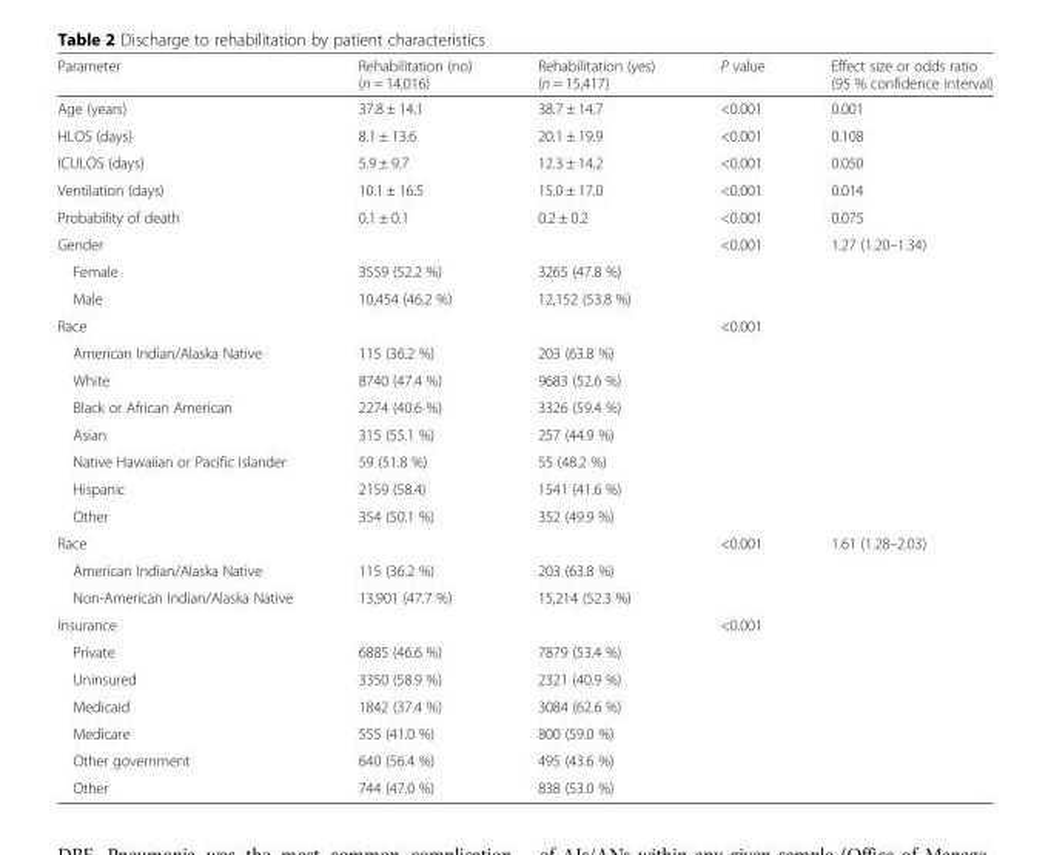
<table><thead><tr><td>Parameter</td><td>Rehabilitation (no) (n = 14,016)</td><td>Rehabilitation (yes) (n = 15,417)</td><td>P value</td><td>Effect size or odds ratio (95 % confidence interval)</td></tr></thead><tbody><tr><td>Age (years)</td><td>37.8 ± 14.1</td><td>38.7 ± 14.7</td><td>&lt;0.001</td><td>0.001</td></tr><tr><td>HLOS (days)</td><td>8.1 ± 13.6</td><td>20.1 ± 19.9</td><td>&lt;0.001</td><td>0.108</td></tr><tr><td>ICULOS (days)</td><td>5.9 ± 9.7</td><td>12.3 ± 14.2</td><td>&lt;0.001</td><td>0.050</td></tr><tr><td>Ventilation (days)</td><td>10.1 ± 16.5</td><td>15.0 ± 17.0</td><td>&lt;0.001</td><td>0.014</td></tr><tr><td>Probability of death</td><td>0.1 ± 0.1</td><td>0.2 ± 0.2</td><td>&lt;0.001</td><td>0.075</td></tr><tr><td>Gender</td><td></td><td></td><td>&lt;0.001</td><td>1.27 (1.20–1.34)</td></tr><tr><td>Female</td><td>3559 (52.2 %)</td><td>3265 (47.8 %)</td><td></td><td></td></tr><tr><td>Male</td><td>10,454 (46.2 %)</td><td>12,152 (53.8 %)</td><td></td><td></td></tr><tr><td>Race</td><td></td><td></td><td>&lt;0.001</td><td></td></tr><tr><td>American Indian/Alaska Native</td><td>115 (36.2 %)</td><td>203 (63.8 %)</td><td></td><td></td></tr><tr><td>White</td><td>8740 (47.4 %)</td><td>9683 (52.6 %)</td><td></td><td></td></tr><tr><td>Black or African American</td><td>2274 (40.6 %)</td><td>3326 (59.4 %)</td><td></td><td></td></tr><tr><td>Asian</td><td>315 (55.1 %)</td><td>257 (44.9 %)</td><td></td><td></td></tr><tr><td>Native Hawaiian or Pacific Islander</td><td>59 (51.8 %)</td><td>55 (48.2 %)</td><td></td><td></td></tr><tr><td>Hispanic</td><td>2159 (58.4)</td><td>1541 (41.6 %)</td><td></td><td></td></tr><tr><td>Other</td><td>354 (50.1 %)</td><td>352 (49.9 %)</td><td></td><td></td></tr><tr><td>Race</td><td></td><td></td><td>&lt;0.001</td><td>1.61 (1.28–2.03)</td></tr><tr><td>American Indian/Alaska Native</td><td>115 (36.2 %)</td><td>203 (63.8 %)</td><td></td><td></td></tr><tr><td>Non-American Indian/Alaska Native</td><td>13,901 (47.7 %)</td><td>15,214 (52.3 %)</td><td></td><td></td></tr><tr><td>Insurance</td><td></td><td></td><td>&lt;0.001</td><td></td></tr><tr><td>Private</td><td>6885 (46.6 %)</td><td>7879 (53.4 %)</td><td></td><td></td></tr><tr><td>Uninsured</td><td>3350 (58.9 %)</td><td>2321 (40.9 %)</td><td></td><td></td></tr><tr><td>Medicaid</td><td>1842 (37.4 %)</td><td>3084 (62.6 %)</td><td></td><td></td></tr><tr><td>Medicare</td><td>555 (41.0 %)</td><td>800 (59.0 %)</td><td></td><td></td></tr><tr><td>Other government</td><td>640 (56.4 %)</td><td>495 (43.6 %)</td><td></td><td></td></tr><tr><td>Other</td><td>744 (47.0 %)</td><td>838 (53.0 %)</td><td></td><td></td></tr></tbody></table>